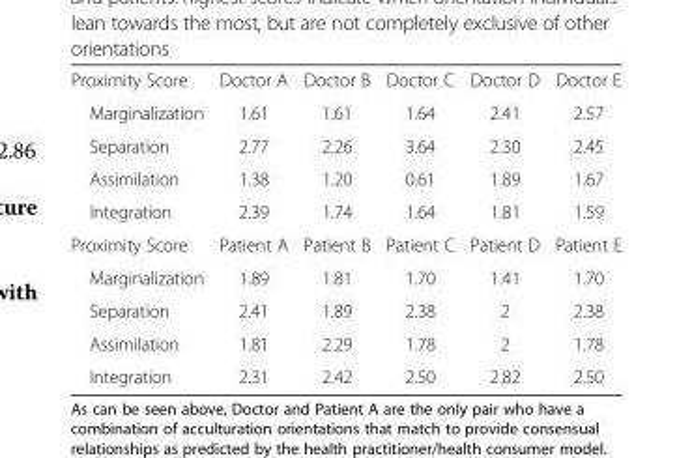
<table><tbody><tr><td>Proximity Score</td><td>Doctor A</td><td>Doctor B</td><td>Doctor C</td><td>Doctor D</td><td>Doctor E</td></tr><tr><td>Marginalization</td><td>1.61</td><td>1.61</td><td>1.64</td><td>2.41</td><td>2.57</td></tr><tr><td>Separation</td><td>2.77</td><td>2.26</td><td>3.64</td><td>2.30</td><td>2.45</td></tr><tr><td>Assimilation</td><td>1.38</td><td>1.20</td><td>0.61</td><td>1.89</td><td>1.67</td></tr><tr><td>Integration</td><td>2.39</td><td>1.74</td><td>1.64</td><td>1.81</td><td>1.59</td></tr><tr><td>Proximity Score</td><td>Patient A</td><td>Patient B</td><td>Patient C</td><td>Patient D</td><td>Patient E</td></tr><tr><td>Marginalization</td><td>1.89</td><td>1.81</td><td>1.70</td><td>1.41</td><td>1.70</td></tr><tr><td>Separation</td><td>2.41</td><td>1.89</td><td>2.38</td><td>2</td><td>2.38</td></tr><tr><td>Assimilation</td><td>1.81</td><td>2.29</td><td>1.78</td><td>2</td><td>1.78</td></tr><tr><td>Integration</td><td>2.31</td><td>2.42</td><td>2.50</td><td>2.82</td><td>2.50</td></tr></tbody></table>